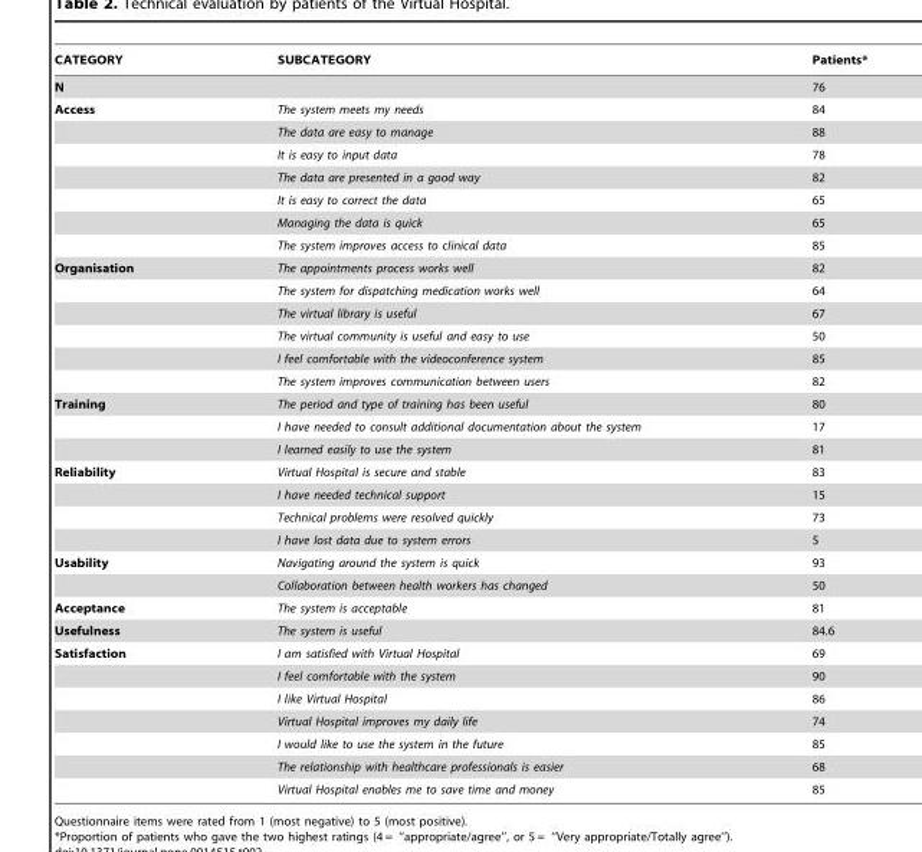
<table><thead><tr><td>CATEGORY</td><td>SUBCATEGORY</td><td>Patients*</td></tr></thead><tbody><tr><td>N</td><td></td><td>76</td></tr><tr><td rowspan="7">Access</td><td>The system meets my needs</td><td>84</td></tr><tr><td>The data are easy to manage</td><td>88</td></tr><tr><td>It is easy to input data</td><td>78</td></tr><tr><td>The data are presented in a good way</td><td>82</td></tr><tr><td>It is easy to correct the data</td><td>65</td></tr><tr><td>Managing the data is quick</td><td>65</td></tr><tr><td>The system improves access to clinical data</td><td>85</td></tr><tr><td rowspan="6">Organisation</td><td>The appointments process works well</td><td>82</td></tr><tr><td>The system for dispatching medication works well</td><td>64</td></tr><tr><td>The virtual library is useful</td><td>67</td></tr><tr><td>The virtual community is useful and easy to use</td><td>50</td></tr><tr><td>I feel comfortable with the videoconference system</td><td>85</td></tr><tr><td>The system improves communication between users</td><td>82</td></tr><tr><td rowspan="3">Training</td><td>The period and type of training has been useful</td><td>80</td></tr><tr><td>I have needed to consult additional documentation about the system</td><td>17</td></tr><tr><td>I learned easily to use the system</td><td>81</td></tr><tr><td rowspan="4">Reliability</td><td>Virtual Hospital is secure and stable</td><td>83</td></tr><tr><td>I have needed technical support</td><td>15</td></tr><tr><td>Technical problems were resolved quickly</td><td>73</td></tr><tr><td>I have lost data due to system errors</td><td>5</td></tr><tr><td rowspan="2">Usability</td><td>Navigating around the system is quick</td><td>93</td></tr><tr><td>Collaboration between health workers has changed</td><td>50</td></tr><tr><td>Acceptance</td><td>The system is acceptable</td><td>81</td></tr><tr><td>Usefulness</td><td>The system is useful</td><td>84.6</td></tr><tr><td rowspan="7">Satisfaction</td><td>I am satisfied with Virtual Hospital</td><td>69</td></tr><tr><td>I feel comfortable with the system</td><td>90</td></tr><tr><td>I like Virtual Hospital</td><td>86</td></tr><tr><td>Virtual Hospital improves my daily life</td><td>74</td></tr><tr><td>I would like to use the system in the future</td><td>85</td></tr><tr><td>The relationship with healthcare professionals is easier</td><td>68</td></tr><tr><td>Virtual Hospital enables me to save time and money</td><td>85</td></tr></tbody></table>